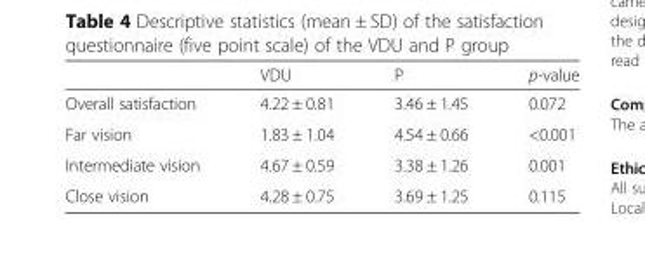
<table><thead><tr><td></td><td>VDU</td><td>P</td><td>p-value</td></tr></thead><tbody><tr><td>Overall satisfaction</td><td>4.22 ± 0.81</td><td>3.46 ± 1.45</td><td>0.072</td></tr><tr><td>Far vision</td><td>1.83 ± 1.04</td><td>4.54 ± 0.66</td><td>&lt;0.001</td></tr><tr><td>Intermediate vision</td><td>4.67 ± 0.59</td><td>3.38 ± 1.26</td><td>0.001</td></tr><tr><td>Close vision</td><td>4.28 ± 0.75</td><td>3.69 ± 1.25</td><td>0.115</td></tr></tbody></table>